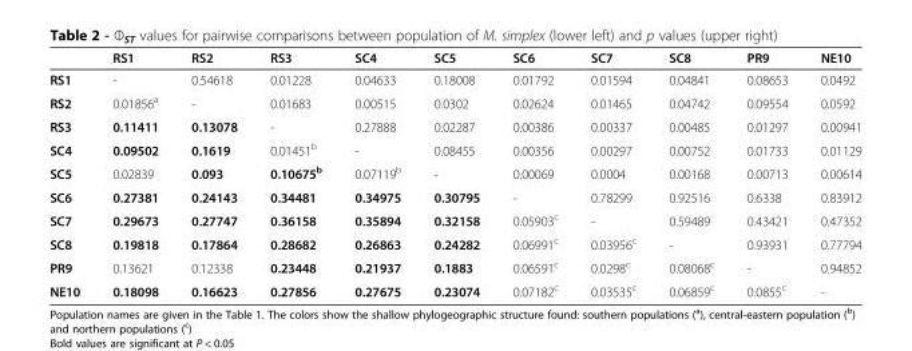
<table><thead><tr><td></td><td>RS1</td><td>RS2</td><td>RS3</td><td>SC4</td><td>SC5</td><td>SC6</td><td>SC7</td><td>SC8</td><td>PR9</td><td>NE10</td></tr></thead><tbody><tr><td>RS1</td><td>-</td><td>0.54618</td><td>0.01228</td><td>0.04633</td><td>0.18008</td><td>0.01792</td><td>0.01594</td><td>0.04841</td><td>0.08653</td><td>0.0492</td></tr><tr><td>RS2</td><td>0.01856<sup>a</sup></td><td>-</td><td>0.01683</td><td>0.00515</td><td>0.0302</td><td>0.02624</td><td>0.01465</td><td>0.04742</td><td>0.09554</td><td>0.0592</td></tr><tr><td>RS3</td><td>0.11411</td><td>0.13078</td><td>-</td><td>0.27888</td><td>0.02287</td><td>0.00386</td><td>0.00337</td><td>0.00485</td><td>0.01297</td><td>0.00941</td></tr><tr><td>SC4</td><td>0.09502</td><td>0.1619</td><td>0.01451<sup>b</sup></td><td>-</td><td>0.08455</td><td>0.00356</td><td>0.00297</td><td>0.00752</td><td>0.01733</td><td>0.01129</td></tr><tr><td>SC5</td><td>0.02839</td><td>0.093</td><td>0.10675<sup>b</sup></td><td>0.07119<sup>b</sup></td><td>-</td><td>0.00069</td><td>0.0004</td><td>0.00168</td><td>0.00713</td><td>0.00614</td></tr><tr><td>SC6</td><td>0.27381</td><td>0.24143</td><td>0.34481</td><td>0.34975</td><td>0.30795</td><td>-</td><td>0.78299</td><td>0.92516</td><td>0.6338</td><td>0.83912</td></tr><tr><td>SC7</td><td>0.29673</td><td>0.27747</td><td>0.36158</td><td>0.35894</td><td>0.32158</td><td>0.05903<sup>c</sup></td><td>-</td><td>0.59489</td><td>0.43421</td><td>0.47352</td></tr><tr><td>SC8</td><td>0.19818</td><td>0.17864</td><td>0.28682</td><td>0.26863</td><td>0.24282</td><td>0.06991<sup>c</sup></td><td>0.03956<sup>c</sup></td><td>-</td><td>0.93931</td><td>0.77794</td></tr><tr><td>PR9</td><td>0.13621</td><td>0.12338</td><td>0.23448</td><td>0.21937</td><td>0.1883</td><td>0.06591<sup>c</sup></td><td>0.0298<sup>c</sup></td><td>0.08068<sup>c</sup></td><td>-</td><td>0.94852</td></tr><tr><td>NE10</td><td>0.18098</td><td>0.16623</td><td>0.27856</td><td>0.27675</td><td>0.23074</td><td>0.07182<sup>c</sup></td><td>0.03535<sup>c</sup></td><td>0.06859<sup>c</sup></td><td>0.0855<sup>c</sup></td><td>-</td></tr></tbody></table>